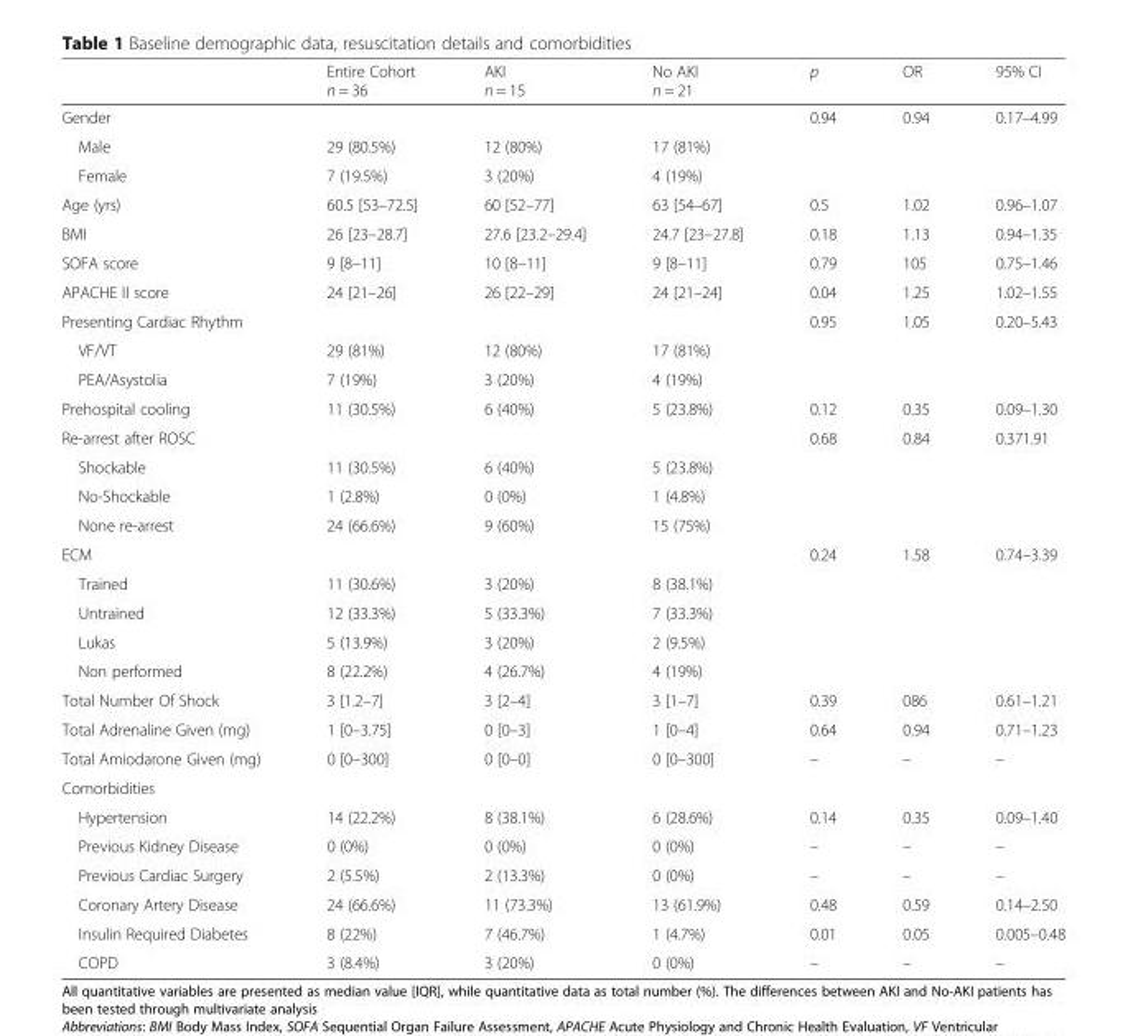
<table><thead><tr><td></td><td>Entire Cohort n = 36</td><td>AKI n = 15</td><td>No AKI n = 21</td><td>p</td><td>OR</td><td>95% CI</td></tr></thead><tbody><tr><td colspan="4">Gender</td><td rowspan="3">0.94</td><td rowspan="3">0.94</td><td rowspan="3">0.17–4.99</td></tr><tr><td>Male</td><td>29 (80.5%)</td><td>12 (80%)</td><td>17 (81%)</td></tr><tr><td>Female</td><td>7 (19.5%)</td><td>3 (20%)</td><td>4 (19%)</td></tr><tr><td>Age (yrs)</td><td>60.5 [53–72.5]</td><td>60 [52–77]</td><td>63 [54–67]</td><td>0.5</td><td>1.02</td><td>0.96–1.07</td></tr><tr><td>BMI</td><td>26 [23–28.7]</td><td>27.6 [23.2–29.4]</td><td>24.7 [23–27.8]</td><td>0.18</td><td>1.13</td><td>0.94–1.35</td></tr><tr><td>SOFA score</td><td>9 [8–11]</td><td>10 [8–11]</td><td>9 [8–11]</td><td>0.79</td><td>105</td><td>0.75–1.46</td></tr><tr><td>APACHE II score</td><td>24 [21–26]</td><td>26 [22–29]</td><td>24 [21–24]</td><td>0.04</td><td>1.25</td><td>1.02–1.55</td></tr><tr><td colspan="4">Presenting Cardiac Rhythm</td><td rowspan="3">0.95</td><td rowspan="3">1.05</td><td rowspan="3">0.20–5.43</td></tr><tr><td>VF/VT</td><td>29 (81%)</td><td>12 (80%)</td><td>17 (81%)</td></tr><tr><td>PEA/Asystolia</td><td>7 (19%)</td><td>3 (20%)</td><td>4 (19%)</td></tr><tr><td>Prehospital cooling</td><td>11 (30.5%)</td><td>6 (40%)</td><td>5 (23.8%)</td><td>0.12</td><td>0.35</td><td>0.09–1.30</td></tr><tr><td colspan="4">Re-arrest after ROSC</td><td rowspan="4">0.68</td><td rowspan="4">0.84</td><td rowspan="4">0.371.91</td></tr><tr><td>Shockable</td><td>11 (30.5%)</td><td>6 (40%)</td><td>5 (23.8%)</td></tr><tr><td>No-Shockable</td><td>1 (2.8%)</td><td>0 (0%)</td><td>1 (4.8%)</td></tr><tr><td>None re-arrest</td><td>24 (66.6%)</td><td>9 (60%)</td><td>15 (75%)</td></tr><tr><td colspan="4">ECM</td><td rowspan="5">0.24</td><td rowspan="5">1.58</td><td rowspan="5">0.74–3.39</td></tr><tr><td>Trained</td><td>11 (30.6%)</td><td>3 (20%)</td><td>8 (38.1%)</td></tr><tr><td>Untrained</td><td>12 (33.3%)</td><td>5 (33.3%)</td><td>7 (33.3%)</td></tr><tr><td>Lukas</td><td>5 (13.9%)</td><td>3 (20%)</td><td>2 (9.5%)</td></tr><tr><td>Non performed</td><td>8 (22.2%)</td><td>4 (26.7%)</td><td>4 (19%)</td></tr><tr><td>Total Number Of Shock</td><td>3 [1.2–7]</td><td>3 [2–4]</td><td>3 [1–7]</td><td>0.39</td><td>086</td><td>0.61–1.21</td></tr><tr><td>Total Adrenaline Given (mg)</td><td>1 [0–3.75]</td><td>0 [0–3]</td><td>1 [0–4]</td><td>0.64</td><td>0.94</td><td>0.71–1.23</td></tr><tr><td>Total Amiodarone Given (mg)</td><td>0 [0–300]</td><td>0 [0–0]</td><td>0 [0–300]</td><td>–</td><td>–</td><td>–</td></tr><tr><td colspan="7">Comorbidities</td></tr><tr><td>Hypertension</td><td>14 (22.2%)</td><td>8 (38.1%)</td><td>6 (28.6%)</td><td>0.14</td><td>0.35</td><td>0.09–1.40</td></tr><tr><td>Previous Kidney Disease</td><td>0 (0%)</td><td>0 (0%)</td><td>0 (0%)</td><td>–</td><td>–</td><td>–</td></tr><tr><td>Previous Cardiac Surgery</td><td>2 (5.5%)</td><td>2 (13.3%)</td><td>0 (0%)</td><td>–</td><td>–</td><td>–</td></tr><tr><td>Coronary Artery Disease</td><td>24 (66.6%)</td><td>11 (73.3%)</td><td>13 (61.9%)</td><td>0.48</td><td>0.59</td><td>0.14–2.50</td></tr><tr><td>Insulin Required Diabetes</td><td>8 (22%)</td><td>7 (46.7%)</td><td>1 (4.7%)</td><td>0.01</td><td>0.05</td><td>0.005–0.48</td></tr><tr><td>COPD</td><td>3 (8.4%)</td><td>3 (20%)</td><td>0 (0%)</td><td>–</td><td>–</td><td>–</td></tr></tbody></table>